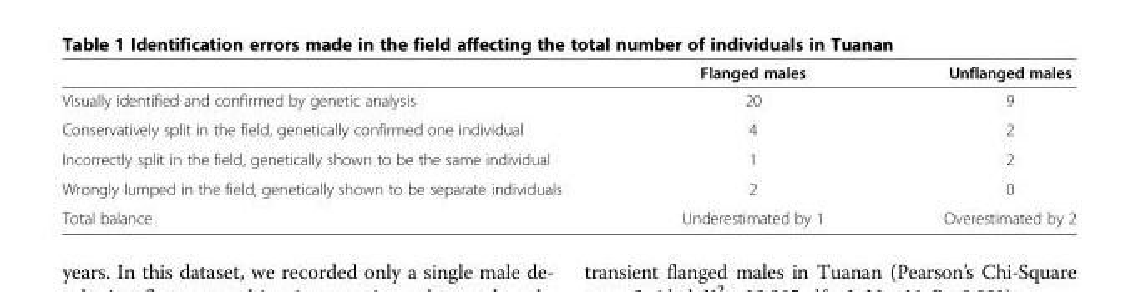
<table><thead><tr><td></td><td>Flanged males</td><td>Unflanged males</td></tr></thead><tbody><tr><td>Visually identified and confirmed by genetic analysis</td><td>20</td><td>9</td></tr><tr><td>Conservatively split in the field, genetically confirmed one individual</td><td>4</td><td>2</td></tr><tr><td>Incorrectly split in the field, genetically shown to be the same individual</td><td>1</td><td>2</td></tr><tr><td>Wrongly lumped in the field, genetically shown to be separate individuals</td><td>2</td><td>0</td></tr><tr><td>Total balance</td><td>Underestimated by 1</td><td>Overestimated by 2</td></tr></tbody></table>